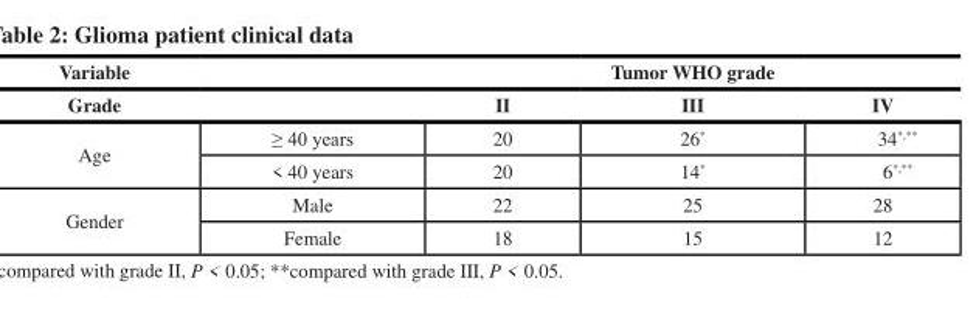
<table><thead><tr><td rowspan="2">Variable Grade</td><td rowspan="2"></td><td colspan="3">Tumor WHO grade</td></tr><tr><td>II</td><td>III</td><td>IV</td></tr></thead><tbody><tr><td rowspan="2">Age</td><td>≥ 40 years</td><td>20</td><td>26*</td><td>34<sup>*,**</sup></td></tr><tr><td>&lt; 40 years</td><td>20</td><td>14*</td><td>6<sup>*,**</sup></td></tr><tr><td rowspan="2">Gender</td><td>Male</td><td>22</td><td>25</td><td>28</td></tr><tr><td>Female</td><td>18</td><td>15</td><td>12</td></tr></tbody></table>